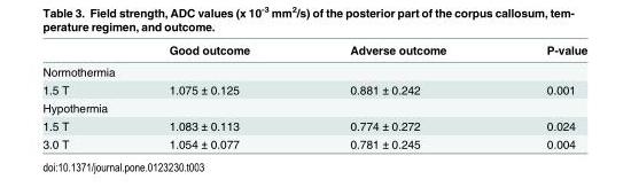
<table><thead><tr><td></td><td>Good outcome</td><td>Adverse outcome</td><td>P-value</td></tr></thead><tbody><tr><td colspan="4">Normothermia</td></tr><tr><td>1.5 T</td><td>1.075 ± 0.125</td><td>0.881 ± 0.242</td><td>0.001</td></tr><tr><td colspan="4">Hypothermia</td></tr><tr><td>1.5 T</td><td>1.083 ± 0.113</td><td>0.774 ± 0.272</td><td>0.024</td></tr><tr><td>3.0 T</td><td>1.054 ± 0.077</td><td>0.781 ± 0.245</td><td>0.004</td></tr></tbody></table>